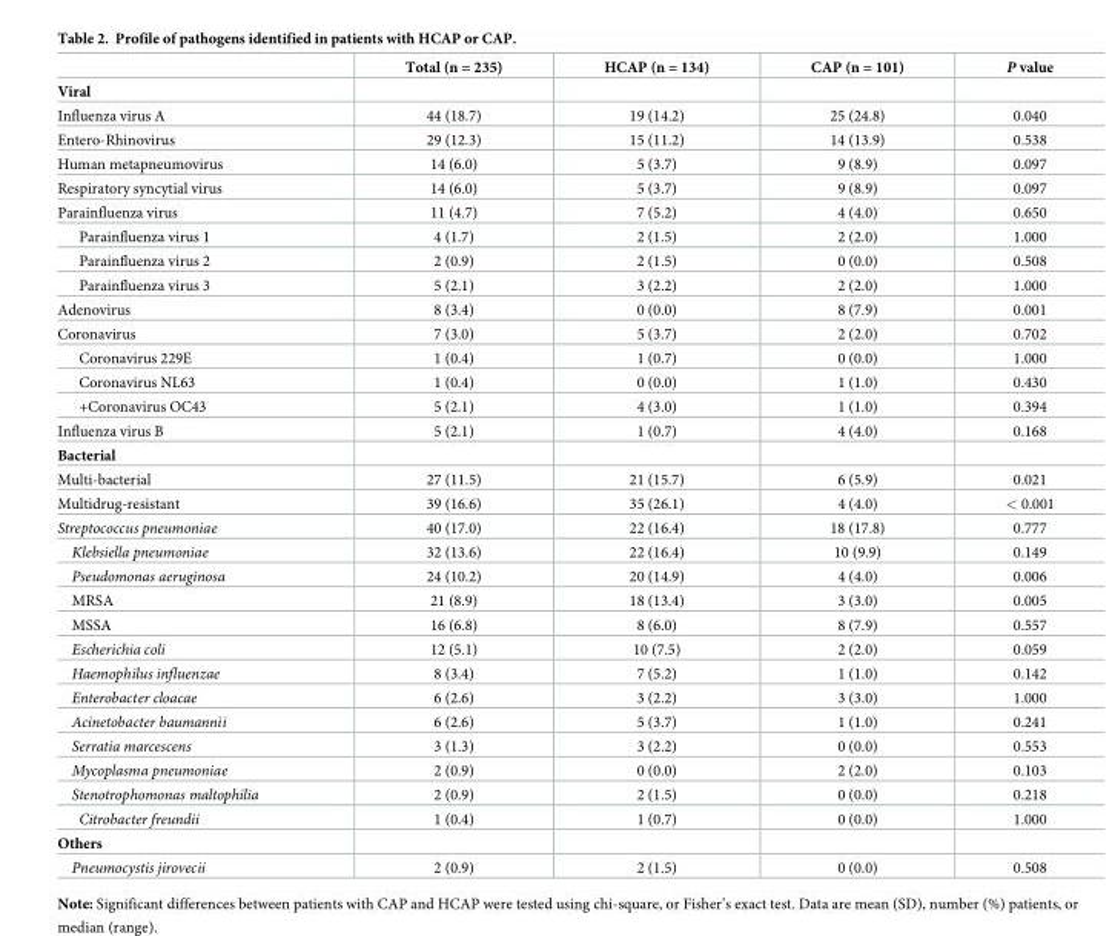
<table><thead><tr><td></td><td>Total (n = 235)</td><td>HCAP (n = 134)</td><td>CAP (n = 101)</td><td>P value</td></tr></thead><tbody><tr><td colspan="5">Viral</td></tr><tr><td>Influenza virus A</td><td>44 (18.7)</td><td>19 (14.2)</td><td>25 (24.8)</td><td>0.040</td></tr><tr><td>Entero-Rhinovirus</td><td>29 (12.3)</td><td>15 (11.2)</td><td>14 (13.9)</td><td>0.538</td></tr><tr><td>Human metapneumovirus</td><td>14 (6.0)</td><td>5 (3.7)</td><td>9 (8.9)</td><td>0.097</td></tr><tr><td>Respiratory syncytial virus</td><td>14 (6.0)</td><td>5 (3.7)</td><td>9 (8.9)</td><td>0.097</td></tr><tr><td>Parainfluenza virus</td><td>11 (4.7)</td><td>7 (5.2)</td><td>4 (4.0)</td><td>0.650</td></tr><tr><td>Parainfluenza virus 1</td><td>4 (1.7)</td><td>2 (1.5)</td><td>2 (2.0)</td><td>1.000</td></tr><tr><td>Parainfluenza virus 2</td><td>2 (0.9)</td><td>2 (1.5)</td><td>0 (0.0)</td><td>0.508</td></tr><tr><td>Parainfluenza virus 3</td><td>5 (2.1)</td><td>3 (2.2)</td><td>2 (2.0)</td><td>1.000</td></tr><tr><td>Adenovirus</td><td>8 (3.4)</td><td>0 (0.0)</td><td>8 (7.9)</td><td>0.001</td></tr><tr><td>Coronavirus</td><td>7 (3.0)</td><td>5 (3.7)</td><td>2 (2.0)</td><td>0.702</td></tr><tr><td>Coronavirus 229E</td><td>1 (0.4)</td><td>1 (0.7)</td><td>0 (0.0)</td><td>1.000</td></tr><tr><td>Coronavirus NL63</td><td>1 (0.4)</td><td>0 (0.0)</td><td>1 (1.0)</td><td>0.430</td></tr><tr><td>+Coronavirus OC43</td><td>5 (2.1)</td><td>4 (3.0)</td><td>1 (1.0)</td><td>0.394</td></tr><tr><td>Influenza virus B</td><td>5 (2.1)</td><td>1 (0.7)</td><td>4 (4.0)</td><td>0.168</td></tr><tr><td colspan="5">Bacterial</td></tr><tr><td>Multi-bacterial</td><td>27 (11.5)</td><td>21 (15.7)</td><td>6 (5.9)</td><td>0.021</td></tr><tr><td>Multidrug-resistant</td><td>39 (16.6)</td><td>35 (26.1)</td><td>4 (4.0)</td><td>&lt; 0.001</td></tr><tr><td>Streptococcus pneumoniae</td><td>40 (17.0)</td><td>22 (16.4)</td><td>18 (17.8)</td><td>0.777</td></tr><tr><td>Klebsiella pneumoniae</td><td>32 (13.6)</td><td>22 (16.4)</td><td>10 (9.9)</td><td>0.149</td></tr><tr><td>Pseudomonas aeruginosa</td><td>24 (10.2)</td><td>20 (14.9)</td><td>4 (4.0)</td><td>0.006</td></tr><tr><td>MRSA</td><td>21 (8.9)</td><td>18 (13.4)</td><td>3 (3.0)</td><td>0.005</td></tr><tr><td>MSSA</td><td>16 (6.8)</td><td>8 (6.0)</td><td>8 (7.9)</td><td>0.557</td></tr><tr><td>Escherichia coli</td><td>12 (5.1)</td><td>10 (7.5)</td><td>2 (2.0)</td><td>0.059</td></tr><tr><td>Haemophilus influenzae</td><td>8 (3.4)</td><td>7 (5.2)</td><td>1 (1.0)</td><td>0.142</td></tr><tr><td>Enterobacter cloacae</td><td>6 (2.6)</td><td>3 (2.2)</td><td>3 (3.0)</td><td>1.000</td></tr><tr><td>Acinetobacter baumannii</td><td>6 (2.6)</td><td>5 (3.7)</td><td>1 (1.0)</td><td>0.241</td></tr><tr><td>Serratia marcescens</td><td>3 (1.3)</td><td>3 (2.2)</td><td>0 (0.0)</td><td>0.553</td></tr><tr><td>Mycoplasma pneumoniae</td><td>2 (0.9)</td><td>0 (0.0)</td><td>2 (2.0)</td><td>0.103</td></tr><tr><td>Stenotrophomonas maltophilia</td><td>2 (0.9)</td><td>2 (1.5)</td><td>0 (0.0)</td><td>0.218</td></tr><tr><td>Citrobacter freundii</td><td>1 (0.4)</td><td>1 (0.7)</td><td>0 (0.0)</td><td>1.000</td></tr><tr><td colspan="5">Others</td></tr><tr><td>Pneumocystis jirovecii</td><td>2 (0.9)</td><td>2 (1.5)</td><td>0 (0.0)</td><td>0.508</td></tr></tbody></table>